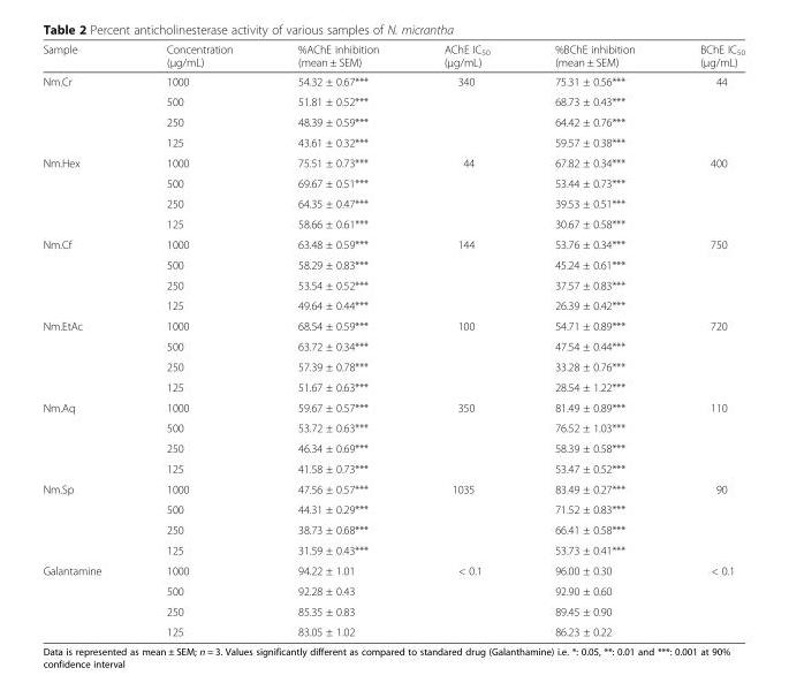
<table><thead><tr><td>Sample</td><td>Concentration (μg/mL)</td><td>%AChE inhibition (mean ± SEM)</td><td>AChE IC<sub>50</sub> (μg/mL)</td><td>%BChE inhibition (mean ± SEM)</td><td>BChE IC<sub>50</sub> (μg/mL)</td></tr></thead><tbody><tr><td rowspan="4">Nm.Cr</td><td>1000</td><td>54.32 ± 0.67***</td><td rowspan="4">340</td><td>75.31 ± 0.56***</td><td rowspan="4">44</td></tr><tr><td>500</td><td>51.81 ± 0.52***</td><td>68.73 ± 0.43***</td></tr><tr><td>250</td><td>48.39 ± 0.59***</td><td>64.42 ± 0.76***</td></tr><tr><td>125</td><td>43.61 ± 0.32***</td><td>59.57 ± 0.38***</td></tr><tr><td rowspan="4">Nm.Hex</td><td>1000</td><td>75.51 ± 0.73***</td><td rowspan="4">44</td><td>67.82 ± 0.34***</td><td rowspan="4">400</td></tr><tr><td>500</td><td>69.67 ± 0.51***</td><td>53.44 ± 0.73***</td></tr><tr><td>250</td><td>64.35 ± 0.47***</td><td>39.53 ± 0.51***</td></tr><tr><td>125</td><td>58.66 ± 0.61***</td><td>30.67 ± 0.58***</td></tr><tr><td rowspan="4">Nm.Cf</td><td>1000</td><td>63.48 ± 0.59***</td><td rowspan="4">144</td><td>53.76 ± 0.34***</td><td rowspan="4">750</td></tr><tr><td>500</td><td>58.29 ± 0.83***</td><td>45.24 ± 0.61***</td></tr><tr><td>250</td><td>53.54 ± 0.52***</td><td>37.57 ± 0.83***</td></tr><tr><td>125</td><td>49.64 ± 0.44***</td><td>26.39 ± 0.42***</td></tr><tr><td rowspan="4">Nm.EtAc</td><td>1000</td><td>68.54 ± 0.59***</td><td rowspan="4">100</td><td>54.71 ± 0.89***</td><td rowspan="4">720</td></tr><tr><td>500</td><td>63.72 ± 0.34***</td><td>47.54 ± 0.44***</td></tr><tr><td>250</td><td>57.39 ± 0.78***</td><td>33.28 ± 0.76***</td></tr><tr><td>125</td><td>51.67 ± 0.63***</td><td>28.54 ± 1.22***</td></tr><tr><td rowspan="4">Nm.Aq</td><td>1000</td><td>59.67 ± 0.57***</td><td rowspan="4">350</td><td>81.49 ± 0.89***</td><td rowspan="4">110</td></tr><tr><td>500</td><td>53.72 ± 0.63***</td><td>76.52 ± 1.03***</td></tr><tr><td>250</td><td>46.34 ± 0.69***</td><td>58.39 ± 0.58***</td></tr><tr><td>125</td><td>41.58 ± 0.73***</td><td>53.47 ± 0.52***</td></tr><tr><td rowspan="4">Nm.Sp</td><td>1000</td><td>47.56 ± 0.57***</td><td rowspan="4">1035</td><td>83.49 ± 0.27***</td><td rowspan="4">90</td></tr><tr><td>500</td><td>44.31 ± 0.29***</td><td>71.52 ± 0.83***</td></tr><tr><td>250</td><td>38.73 ± 0.68***</td><td>66.41 ± 0.58***</td></tr><tr><td>125</td><td>31.59 ± 0.43***</td><td>53.73 ± 0.41***</td></tr><tr><td rowspan="4">Galantamine</td><td>1000</td><td>94.22 ± 1.01</td><td rowspan="4">&lt; 0.1</td><td>96.00 ± 0.30</td><td rowspan="4">&lt; 0.1</td></tr><tr><td>500</td><td>92.28 ± 0.43</td><td>92.90 ± 0.60</td></tr><tr><td>250</td><td>85.35 ± 0.83</td><td>89.45 ± 0.90</td></tr><tr><td>125</td><td>83.05 ± 1.02</td><td>86.23 ± 0.22</td></tr></tbody></table>